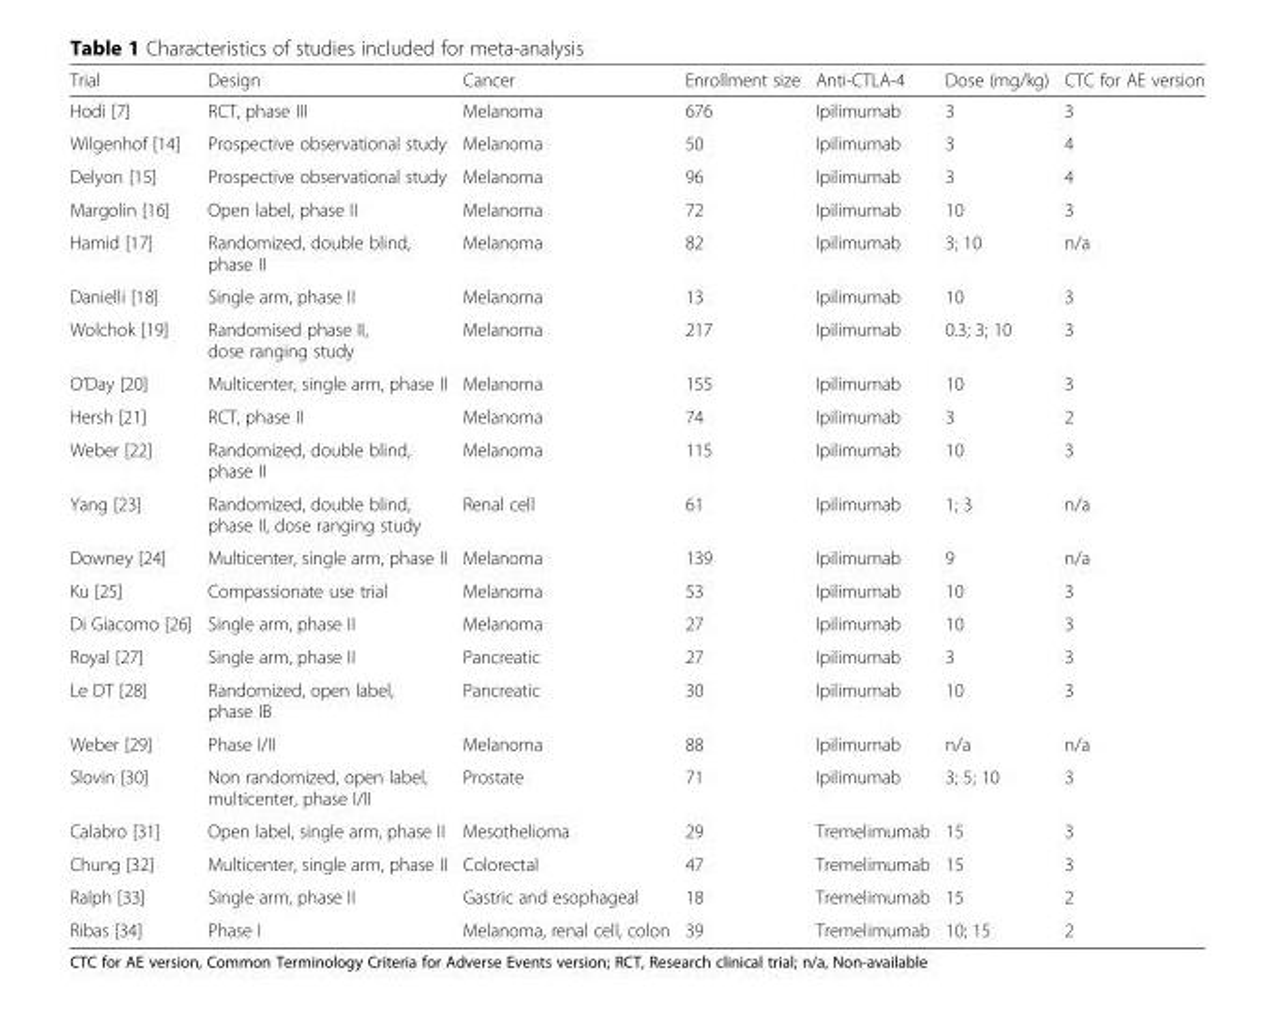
<table><thead><tr><td>Trial</td><td>Design</td><td>Cancer</td><td>Enrollment size</td><td>Anti-CTLA-4</td><td>Dose (mg/kg)</td><td>CTC for AE version</td></tr></thead><tbody><tr><td>Hodi [7]</td><td>RCT, phase III</td><td>Melanoma</td><td>676</td><td>Ipilimumab</td><td>3</td><td>3</td></tr><tr><td>Wilgenhof [14]</td><td>Prospective observational study</td><td>Melanoma</td><td>50</td><td>Ipilimumab</td><td>3</td><td>4</td></tr><tr><td>Delyon [15]</td><td>Prospective observational study</td><td>Melanoma</td><td>96</td><td>Ipilimumab</td><td>3</td><td>4</td></tr><tr><td>Margolin [16]</td><td>Open label, phase II</td><td>Melanoma</td><td>72</td><td>Ipilimumab</td><td>10</td><td>3</td></tr><tr><td>Hamid [17]</td><td>Randomized, double blind, phase II</td><td>Melanoma</td><td>82</td><td>Ipilimumab</td><td>3; 10</td><td>n/a</td></tr><tr><td>Danielli [18]</td><td>Single arm, phase II</td><td>Melanoma</td><td>13</td><td>Ipilimumab</td><td>10</td><td>3</td></tr><tr><td>Wolchok [19]</td><td>Randomised phase II, dose ranging study</td><td>Melanoma</td><td>217</td><td>Ipilimumab</td><td>0.3; 3; 10</td><td>3</td></tr><tr><td>O’Day [20]</td><td>Multicenter, single arm, phase II</td><td>Melanoma</td><td>155</td><td>Ipilimumab</td><td>10</td><td>3</td></tr><tr><td>Hersh [21]</td><td>RCT, phase II</td><td>Melanoma</td><td>74</td><td>Ipilimumab</td><td>3</td><td>2</td></tr><tr><td>Weber [22]</td><td>Randomized, double blind, phase II</td><td>Melanoma</td><td>115</td><td>Ipilimumab</td><td>10</td><td>3</td></tr><tr><td>Yang [23]</td><td>Randomized, double blind, phase II, dose ranging study</td><td>Renal cell</td><td>61</td><td>Ipilimumab</td><td>1; 3</td><td>n/a</td></tr><tr><td>Downey [24]</td><td>Multicenter, single arm, phase II</td><td>Melanoma</td><td>139</td><td>Ipilimumab</td><td>9</td><td>n/a</td></tr><tr><td>Ku [25]</td><td>Compassionate use trial</td><td>Melanoma</td><td>53</td><td>Ipilimumab</td><td>10</td><td>3</td></tr><tr><td>Di Giacomo [26]</td><td>Single arm, phase II</td><td>Melanoma</td><td>27</td><td>Ipilimumab</td><td>10</td><td>3</td></tr><tr><td>Royal [27]</td><td>Single arm, phase II</td><td>Pancreatic</td><td>27</td><td>Ipilimumab</td><td>3</td><td>3</td></tr><tr><td>Le DT [28]</td><td>Randomized, open label, phase IB</td><td>Pancreatic</td><td>30</td><td>Ipilimumab</td><td>10</td><td>3</td></tr><tr><td>Weber [29]</td><td>Phase I/II</td><td>Melanoma</td><td>88</td><td>Ipilimumab</td><td>n/a</td><td>n/a</td></tr><tr><td>Slovin [30]</td><td>Non randomized, open label, multicenter, phase I/II</td><td>Prostate</td><td>71</td><td>Ipilimumab</td><td>3; 5; 10</td><td>3</td></tr><tr><td>Calabro [31]</td><td>Open label, single arm, phase II</td><td>Mesothelioma</td><td>29</td><td>Tremelimumab</td><td>15</td><td>3</td></tr><tr><td>Chung [32]</td><td>Multicenter, single arm, phase II</td><td>Colorectal</td><td>47</td><td>Tremelimumab</td><td>15</td><td>3</td></tr><tr><td>Ralph [33]</td><td>Single arm, phase II</td><td>Gastric and esophageal</td><td>18</td><td>Tremelimumab</td><td>15</td><td>2</td></tr><tr><td>Ribas [34]</td><td>Phase I</td><td>Melanoma, renal cell, colon</td><td>39</td><td>Tremelimumab</td><td>10; 15</td><td>2</td></tr></tbody></table>